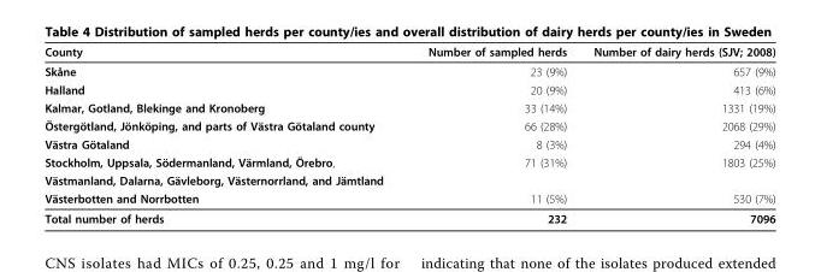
<table><thead><tr><td>County</td><td>Number of sampled herds</td><td>Number of dairy herds (SJV; 2008)</td></tr></thead><tbody><tr><td>Skåne</td><td>23 (9%)</td><td>657 (9%)</td></tr><tr><td>Halland</td><td>20 (9%)</td><td>413 (6%)</td></tr><tr><td>Kalmar, Gotland, Blekinge and Kronoberg</td><td>33 (14%)</td><td>1331 (19%)</td></tr><tr><td>Östergötland, Jönköping, and parts of Västra Götaland county</td><td>66 (28%)</td><td>2068 (29%)</td></tr><tr><td>Västra Götaland</td><td>8 (3%)</td><td>294 (4%)</td></tr><tr><td>Stockholm, Uppsala, Södermanland, Värmland, Örebro,</td><td>71 (31%)</td><td>1803 (25%)</td></tr><tr><td colspan="3">Västmanland, Dalarna, Gävleborg, Västernorrland, and Jämtland</td></tr><tr><td>Västerbotten and Norrbotten</td><td>11 (5%)</td><td>530 (7%)</td></tr><tr><td>Total number of herds</td><td>232</td><td>7096</td></tr></tbody></table>